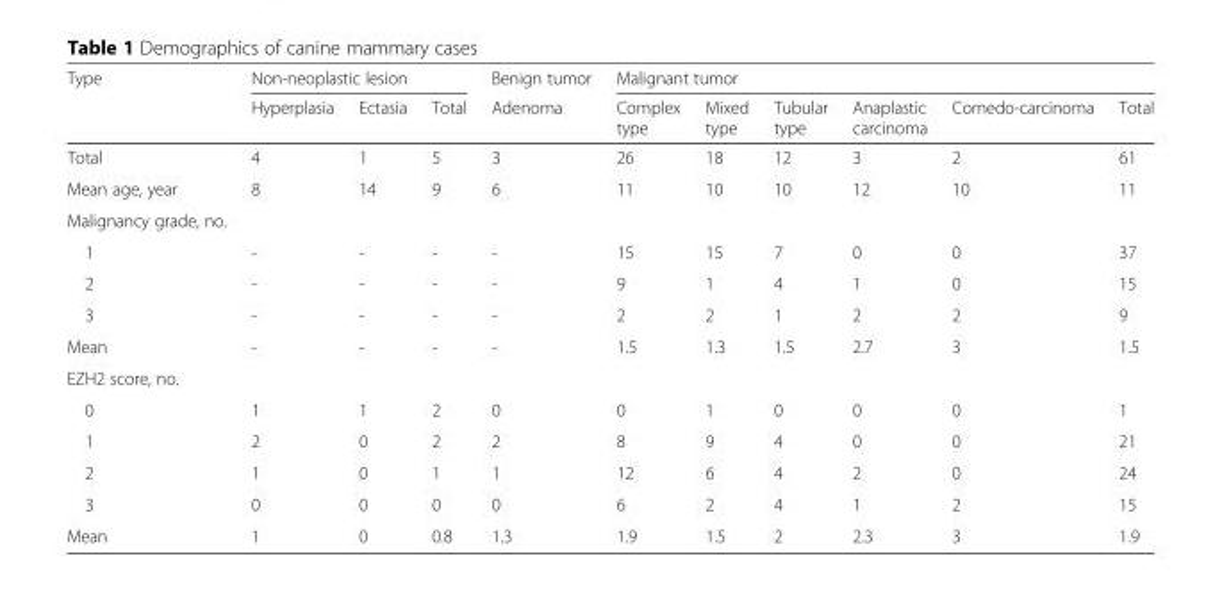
<table><thead><tr><td rowspan="2">Type</td><td colspan="3">Non-neoplastic lesion</td><td rowspan="2">Benign tumor Adenoma</td><td colspan="6">Malignant tumor</td></tr><tr><td>Hyperplasia</td><td>Ectasia</td><td>Total</td><td>Complex type</td><td>Mixed type</td><td>Tubular type</td><td>Anaplastic carcinoma</td><td>Comedo-carcinoma</td><td>Total</td></tr></thead><tbody><tr><td>Total</td><td>4</td><td>1</td><td>5</td><td>3</td><td>26</td><td>18</td><td>12</td><td>3</td><td>2</td><td>61</td></tr><tr><td>Mean age, year</td><td>8</td><td>14</td><td>9</td><td>6</td><td>11</td><td>10</td><td>10</td><td>12</td><td>10</td><td>11</td></tr><tr><td colspan="11">Malignancy grade, no.</td></tr><tr><td>1</td><td>-</td><td>-</td><td>-</td><td>-</td><td>15</td><td>15</td><td>7</td><td>0</td><td>0</td><td>37</td></tr><tr><td>2</td><td>-</td><td>-</td><td>-</td><td>-</td><td>9</td><td>1</td><td>4</td><td>1</td><td>0</td><td>15</td></tr><tr><td>3</td><td>-</td><td>-</td><td>-</td><td>-</td><td>2</td><td>2</td><td>1</td><td>2</td><td>2</td><td>9</td></tr><tr><td>Mean</td><td>-</td><td>-</td><td>-</td><td>-</td><td>1.5</td><td>1.3</td><td>1.5</td><td>2.7</td><td>3</td><td>1.5</td></tr><tr><td colspan="11">EZH2 score, no.</td></tr><tr><td>0</td><td>1</td><td>1</td><td>2</td><td>0</td><td>0</td><td>1</td><td>0</td><td>0</td><td>0</td><td>1</td></tr><tr><td>1</td><td>2</td><td>0</td><td>2</td><td>2</td><td>8</td><td>9</td><td>4</td><td>0</td><td>0</td><td>21</td></tr><tr><td>2</td><td>1</td><td>0</td><td>1</td><td>1</td><td>12</td><td>6</td><td>4</td><td>2</td><td>0</td><td>24</td></tr><tr><td>3</td><td>0</td><td>0</td><td>0</td><td>0</td><td>6</td><td>2</td><td>4</td><td>1</td><td>2</td><td>15</td></tr><tr><td>Mean</td><td>1</td><td>0</td><td>0.8</td><td>1.3</td><td>1.9</td><td>1.5</td><td>2</td><td>2.3</td><td>3</td><td>1.9</td></tr></tbody></table>